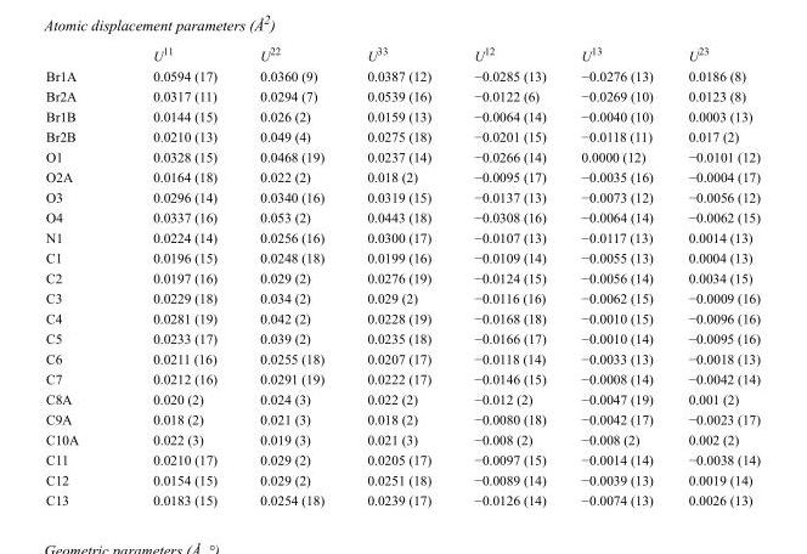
<table><thead><tr><td></td><td>U<sup>11</sup></td><td>U<sup>22</sup></td><td>U<sup>33</sup></td><td>U<sup>12</sup></td><td>U<sup>13</sup></td><td>U<sup>23</sup></td></tr></thead><tbody><tr><td>Br1A</td><td>0.0594 (17)</td><td>0.0360 (9)</td><td>0.0387 (12)</td><td>−0.0285 (13)</td><td>−0.0276 (13)</td><td>0.0186 (8)</td></tr><tr><td>Br2A</td><td>0.0317 (11)</td><td>0.0294 (7)</td><td>0.0539 (16)</td><td>−0.0122 (6)</td><td>−0.0269 (10)</td><td>0.0123 (8)</td></tr><tr><td>Br1B</td><td>0.0144 (15)</td><td>0.026 (2)</td><td>0.0159 (13)</td><td>−0.0064 (14)</td><td>−0.0040 (10)</td><td>0.0003 (13)</td></tr><tr><td>Br2B</td><td>0.0210 (13)</td><td>0.049 (4)</td><td>0.0275 (18)</td><td>−0.0201 (15)</td><td>−0.0118 (11)</td><td>0.017 (2)</td></tr><tr><td>O1</td><td>0.0328 (15)</td><td>0.0468 (19)</td><td>0.0237 (14)</td><td>−0.0266 (14)</td><td>0.0000 (12)</td><td>−0.0101 (12)</td></tr><tr><td>O2A</td><td>0.0164 (18)</td><td>0.022 (2)</td><td>0.018 (2)</td><td>−0.0095 (17)</td><td>−0.0035 (16)</td><td>−0.0004 (17)</td></tr><tr><td>O3</td><td>0.0296 (14)</td><td>0.0340 (16)</td><td>0.0319 (15)</td><td>−0.0137 (13)</td><td>−0.0073 (12)</td><td>−0.0056 (12)</td></tr><tr><td>O4</td><td>0.0337 (16)</td><td>0.053 (2)</td><td>0.0443 (18)</td><td>−0.0308 (16)</td><td>−0.0064 (14)</td><td>−0.0062 (15)</td></tr><tr><td>N1</td><td>0.0224 (14)</td><td>0.0256 (16)</td><td>0.0300 (17)</td><td>−0.0107 (13)</td><td>−0.0117 (13)</td><td>0.0014 (13)</td></tr><tr><td>C1</td><td>0.0196 (15)</td><td>0.0248 (18)</td><td>0.0199 (16)</td><td>−0.0109 (14)</td><td>−0.0055 (13)</td><td>0.0004 (13)</td></tr><tr><td>C2</td><td>0.0197 (16)</td><td>0.029 (2)</td><td>0.0276 (19)</td><td>−0.0124 (15)</td><td>−0.0056 (14)</td><td>0.0034 (15)</td></tr><tr><td>C3</td><td>0.0229 (18)</td><td>0.034 (2)</td><td>0.029 (2)</td><td>−0.0116 (16)</td><td>−0.0062 (15)</td><td>−0.0009 (16)</td></tr><tr><td>C4</td><td>0.0281 (19)</td><td>0.042 (2)</td><td>0.0228 (19)</td><td>−0.0168 (18)</td><td>−0.0010 (15)</td><td>−0.0096 (16)</td></tr><tr><td>C5</td><td>0.0233 (17)</td><td>0.039 (2)</td><td>0.0235 (18)</td><td>−0.0166 (17)</td><td>−0.0010 (14)</td><td>−0.0095 (16)</td></tr><tr><td>C6</td><td>0.0211 (16)</td><td>0.0255 (18)</td><td>0.0207 (17)</td><td>−0.0118 (14)</td><td>−0.0033 (13)</td><td>−0.0018 (13)</td></tr><tr><td>C7</td><td>0.0212 (16)</td><td>0.0291 (19)</td><td>0.0222 (17)</td><td>−0.0146 (15)</td><td>−0.0008 (14)</td><td>−0.0042 (14)</td></tr><tr><td>C8A</td><td>0.020 (2)</td><td>0.024 (3)</td><td>0.022 (2)</td><td>−0.012 (2)</td><td>−0.0047 (19)</td><td>0.001 (2)</td></tr><tr><td>C9A</td><td>0.018 (2)</td><td>0.021 (3)</td><td>0.018 (2)</td><td>−0.0080 (18)</td><td>−0.0042 (17)</td><td>−0.0023 (17)</td></tr><tr><td>C10A</td><td>0.022 (3)</td><td>0.019 (3)</td><td>0.021 (3)</td><td>−0.008 (2)</td><td>−0.008 (2)</td><td>0.002 (2)</td></tr><tr><td>C11</td><td>0.0210 (17)</td><td>0.029 (2)</td><td>0.0205 (17)</td><td>−0.0097 (15)</td><td>−0.0014 (14)</td><td>−0.0038 (14)</td></tr><tr><td>C12</td><td>0.0154 (15)</td><td>0.029 (2)</td><td>0.0251 (18)</td><td>−0.0089 (14)</td><td>−0.0039 (13)</td><td>0.0019 (14)</td></tr><tr><td>C13</td><td>0.0183 (15)</td><td>0.0254 (18)</td><td>0.0239 (17)</td><td>−0.0126 (14)</td><td>−0.0074 (13)</td><td>0.0026 (13)</td></tr></tbody></table>